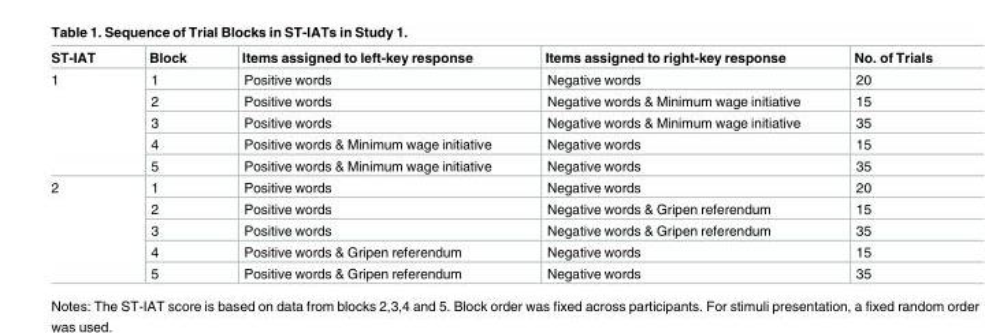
<table><thead><tr><td>ST-IAT</td><td>Block</td><td>Items assigned to left-key response</td><td>Items assigned to right-key response</td><td>No. of Trials</td></tr></thead><tbody><tr><td rowspan="5">1</td><td>1</td><td>Positive words</td><td>Negative words</td><td>20</td></tr><tr><td>2</td><td>Positive words</td><td>Negative words &amp; Minimum wage initiative</td><td>15</td></tr><tr><td>3</td><td>Positive words</td><td>Negative words &amp; Minimum wage initiative</td><td>35</td></tr><tr><td>4</td><td>Positive words &amp; Minimum wage initiative</td><td>Negative words</td><td>15</td></tr><tr><td>5</td><td>Positive words &amp; Minimum wage initiative</td><td>Negative words</td><td>35</td></tr><tr><td rowspan="5">2</td><td>1</td><td>Positive words</td><td>Negative words</td><td>20</td></tr><tr><td>2</td><td>Positive words</td><td>Negative words &amp; Gripen referendum</td><td>15</td></tr><tr><td>3</td><td>Positive words</td><td>Negative words &amp; Gripen referendum</td><td>35</td></tr><tr><td>4</td><td>Positive words &amp; Gripen referendum</td><td>Negative words</td><td>15</td></tr><tr><td>5</td><td>Positive words &amp; Gripen referendum</td><td>Negative words</td><td>35</td></tr></tbody></table>